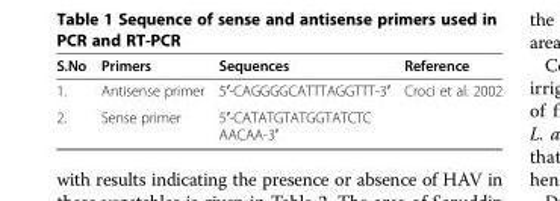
<table><thead><tr><td>S.No</td><td>Primers</td><td>Sequences</td><td>Reference</td></tr></thead><tbody><tr><td>1.</td><td>Antisense primer</td><td>5′-CAGGGGCATTTAGGTTT-3′</td><td rowspan="2">Croci et al. 2002</td></tr><tr><td>2.</td><td>Sense primer</td><td>5′-CATATGTATGGTATCTC AACAA-3′</td></tr></tbody></table>